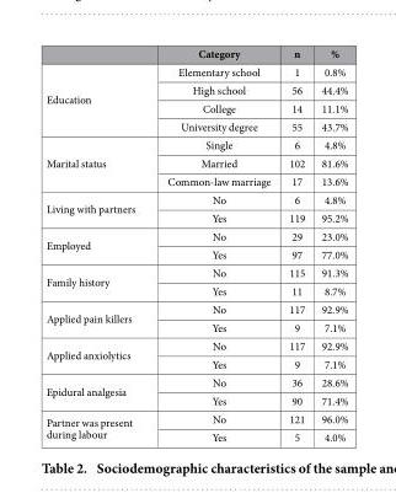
<table><thead><tr><td></td><td>Category</td><td>n</td><td>%</td></tr></thead><tbody><tr><td rowspan="4">Education</td><td>Elementary school</td><td>1</td><td>0.8%</td></tr><tr><td>High school</td><td>56</td><td>44.4%</td></tr><tr><td>College</td><td>14</td><td>11.1%</td></tr><tr><td>University degree</td><td>55</td><td>43.7%</td></tr><tr><td rowspan="3">Marital status</td><td>Single</td><td>6</td><td>4.8%</td></tr><tr><td>Married</td><td>102</td><td>81.6%</td></tr><tr><td>Common-law marriage</td><td>17</td><td>13.6%</td></tr><tr><td rowspan="2">Living with partners</td><td>No</td><td>6</td><td>4.8%</td></tr><tr><td>Yes</td><td>119</td><td>95.2%</td></tr><tr><td rowspan="2">Employed</td><td>No</td><td>29</td><td>23.0%</td></tr><tr><td>Yes</td><td>97</td><td>77.0%</td></tr><tr><td rowspan="2">Family history</td><td>No</td><td>115</td><td>91.3%</td></tr><tr><td>Yes</td><td>11</td><td>8.7%</td></tr><tr><td rowspan="2">Applied pain killers</td><td>No</td><td>117</td><td>92.9%</td></tr><tr><td>Yes</td><td>9</td><td>7.1%</td></tr><tr><td rowspan="2">Applied anxiolytics</td><td>No</td><td>117</td><td>92.9%</td></tr><tr><td>Yes</td><td>9</td><td>7.1%</td></tr><tr><td rowspan="2">Epidural analgesia</td><td>No</td><td>36</td><td>28.6%</td></tr><tr><td>Yes</td><td>90</td><td>71.4%</td></tr><tr><td rowspan="2">Partner was present during labour</td><td>No</td><td>121</td><td>96.0%</td></tr><tr><td>Yes</td><td>5</td><td>4.0%</td></tr></tbody></table>